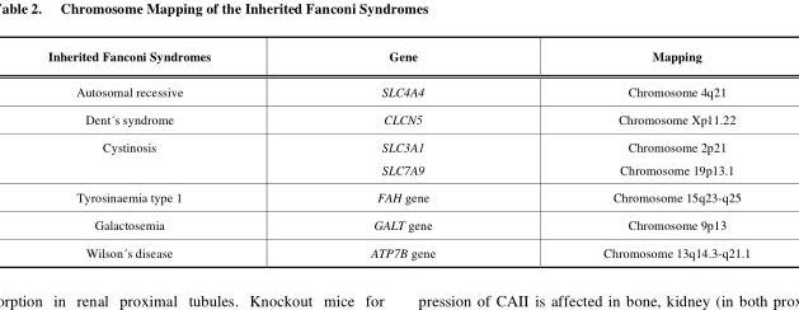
<table><thead><tr><td>Inherited Fanconi Syndromes</td><td>Gene</td><td>Mapping</td></tr></thead><tbody><tr><td>Autosomal recessive</td><td>SLC4A4</td><td>Chromosome 4q21</td></tr><tr><td>Dent´s syndrome</td><td>CLCN5</td><td>Chromosome Xp11.22</td></tr><tr><td>Cystinosis</td><td>SLC3A1 SLC7A9</td><td>Chromosome 2p21 Chromosome 19p13.1</td></tr><tr><td>Tyrosinaemia type 1</td><td>FAH gene</td><td>Chromosome 15q23-q25</td></tr><tr><td>Galactosemia</td><td>GALT gene</td><td>Chromosome 9p13</td></tr><tr><td>Wilson´s disease</td><td>ATP7B gene</td><td>Chromosome 13q14.3-q21.1</td></tr></tbody></table>